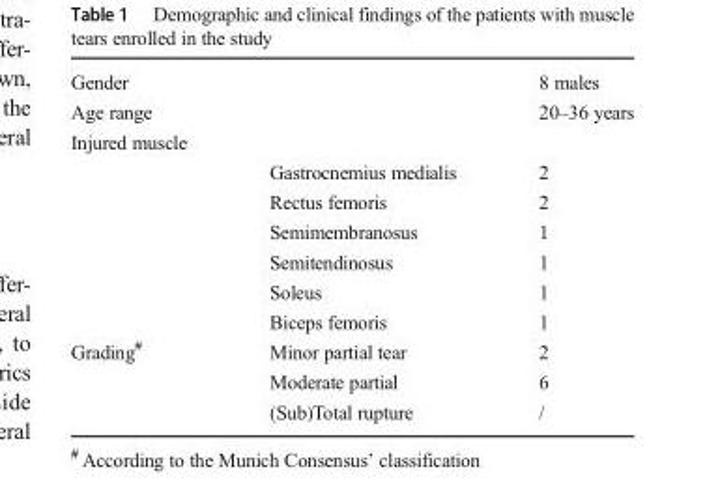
<table><tbody><tr><td>Gender</td><td></td><td>8 males</td></tr><tr><td>Age range</td><td></td><td>20–36 years</td></tr><tr><td colspan="3">Injured muscle</td></tr><tr><td></td><td>Gastrocnemius medialis</td><td>2</td></tr><tr><td></td><td>Rectus femoris</td><td>2</td></tr><tr><td></td><td>Semimembranosus</td><td>1</td></tr><tr><td></td><td>Semitendinosus</td><td>1</td></tr><tr><td></td><td>Soleus</td><td>1</td></tr><tr><td></td><td>Biceps femoris</td><td>1</td></tr><tr><td rowspan="3">Grading<sup>#</sup></td><td>Minor partial tear</td><td>2</td></tr><tr><td>Moderate partial</td><td>6</td></tr><tr><td>(Sub)Total rupture</td><td>/</td></tr></tbody></table>